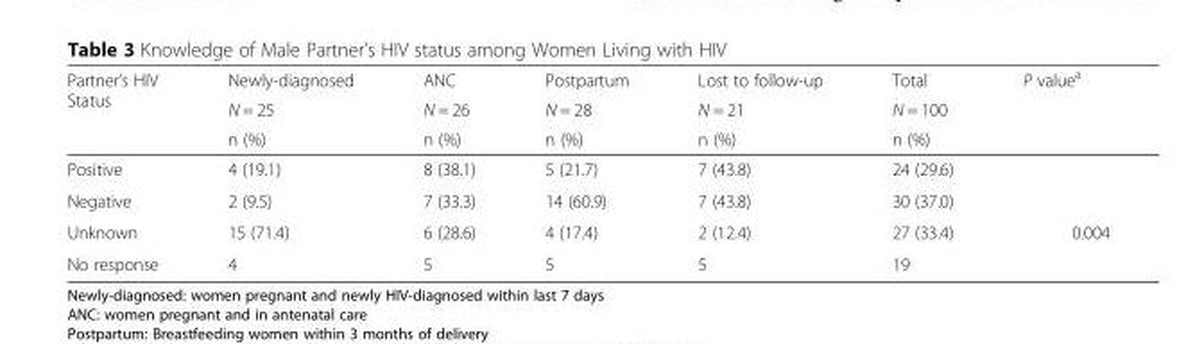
<table><thead><tr><td rowspan="3">Partner’s HIV Status</td><td rowspan="3">Newly-diagnosed N = 25 n (%)</td><td rowspan="3">ANC N = 26 n (%)</td><td rowspan="3">Postpartum N = 28 n (%)</td><td rowspan="3">Lost to follow-up N = 21 n (%)</td><td rowspan="3">Total N = 100 n (%)</td><td rowspan="3">P value<sup>a</sup></td></tr><tr></tr><tr></tr></thead><tbody><tr><td>Positive</td><td>4 (19.1)</td><td>8 (38.1)</td><td>5 (21.7)</td><td>7 (43.8)</td><td>24 (29.6)</td><td></td></tr><tr><td>Negative</td><td>2 (9.5)</td><td>7 (33.3)</td><td>14 (60.9)</td><td>7 (43.8)</td><td>30 (37.0)</td><td></td></tr><tr><td>Unknown</td><td>15 (71.4)</td><td>6 (28.6)</td><td>4 (17.4)</td><td>2 (12.4)</td><td>27 (33.4)</td><td>0.004</td></tr><tr><td>No response</td><td>4</td><td>5</td><td>5</td><td>5</td><td>19</td><td></td></tr></tbody></table>